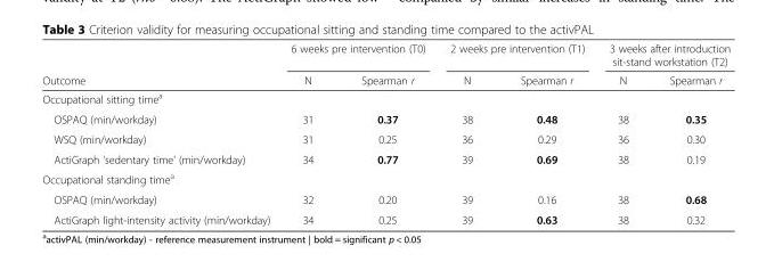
<table><thead><tr><td rowspan="2">Outcome</td><td colspan="2">6 weeks pre intervention (T0)</td><td colspan="2">2 weeks pre intervention (T1)</td><td colspan="2">3 weeks after introduction sit-stand workstation (T2)</td></tr><tr><td>N</td><td>Spearman r</td><td>N</td><td>Spearman r</td><td>N</td><td>Spearman r</td></tr></thead><tbody><tr><td colspan="7">Occupational sitting time<sup>a</sup></td></tr><tr><td>OSPAQ (min/workday)</td><td>31</td><td>0.37</td><td>38</td><td>0.48</td><td>38</td><td>0.35</td></tr><tr><td>WSQ (min/workday)</td><td>31</td><td>0.25</td><td>36</td><td>0.29</td><td>36</td><td>0.30</td></tr><tr><td>ActiGraph &#x27;sedentary time&#x27; (min/workday)</td><td>34</td><td>0.77</td><td>39</td><td>0.69</td><td>38</td><td>0.19</td></tr><tr><td colspan="7">Occupational standing time<sup>a</sup></td></tr><tr><td>OSPAQ (min/workday)</td><td>32</td><td>0.20</td><td>39</td><td>0.16</td><td>38</td><td>0.68</td></tr><tr><td>ActiGraph light-intensity activity (min/workday)</td><td>34</td><td>0.25</td><td>39</td><td>0.63</td><td>38</td><td>0.32</td></tr></tbody></table>